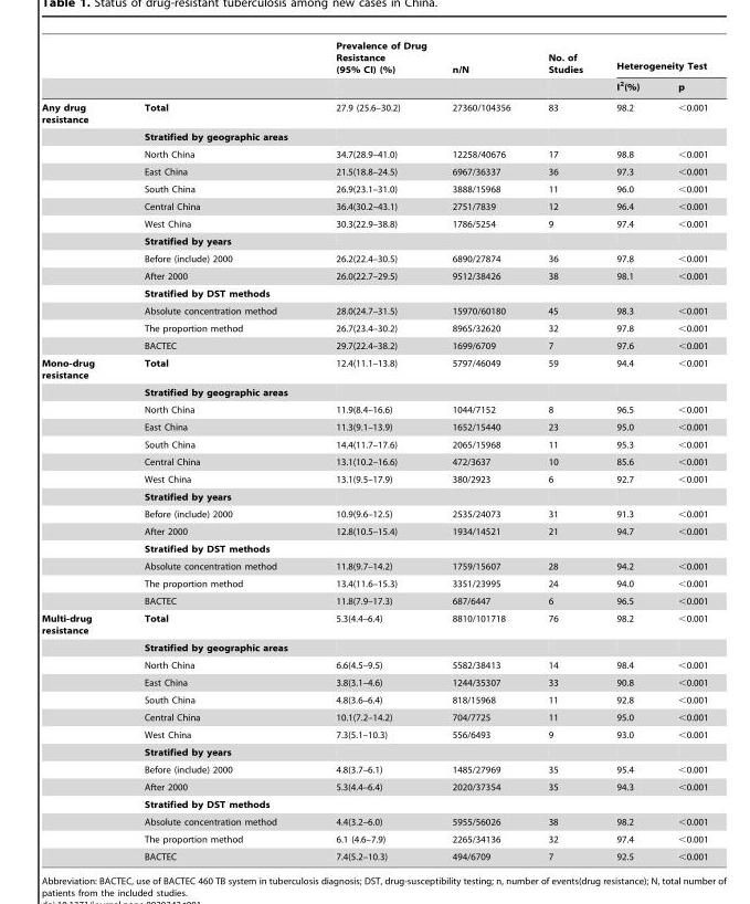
<table><thead><tr><td rowspan="2"></td><td rowspan="2"></td><td rowspan="2">Prevalence of Drug Resistance (95% CI) (%)</td><td rowspan="2">n/N</td><td rowspan="2">No. of Studies</td><td colspan="2">Heterogeneity Test</td></tr><tr><td>I<sup>2</sup>(%)</td><td>p</td></tr></thead><tbody><tr><td rowspan="14">Any drug resistance</td><td>Total</td><td>27.9 (25.6–30.2)</td><td>27360/104356</td><td>83</td><td>98.2</td><td>&lt;0.001</td></tr><tr><td>Stratified by geographic areas</td><td></td><td></td><td></td><td></td><td></td></tr><tr><td>North China</td><td>34.7(28.9–41.0)</td><td>12258/40676</td><td>17</td><td>98.8</td><td>&lt;0.001</td></tr><tr><td>East China</td><td>21.5(18.8–24.5)</td><td>6967/36337</td><td>36</td><td>97.3</td><td>&lt;0.001</td></tr><tr><td>South China</td><td>26.9(23.1–31.0)</td><td>3888/15968</td><td>11</td><td>96.0</td><td>&lt;0.001</td></tr><tr><td>Central China</td><td>36.4(30.2–43.1)</td><td>2751/7839</td><td>12</td><td>96.4</td><td>&lt;0.001</td></tr><tr><td>West China</td><td>30.3(22.9–38.8)</td><td>1786/5254</td><td>9</td><td>97.4</td><td>&lt;0.001</td></tr><tr><td>Stratified by years</td><td></td><td></td><td></td><td></td><td></td></tr><tr><td>Before (include) 2000</td><td>26.2(22.4–30.5)</td><td>6890/27874</td><td>36</td><td>97.8</td><td>&lt;0.001</td></tr><tr><td>After 2000</td><td>26.0(22.7–29.5)</td><td>9512/38426</td><td>38</td><td>98.1</td><td>&lt;0.001</td></tr><tr><td>Stratified by DST methods</td><td></td><td></td><td></td><td></td><td></td></tr><tr><td>Absolute concentration method</td><td>28.0(24.7–31.5)</td><td>15970/60180</td><td>45</td><td>98.3</td><td>&lt;0.001</td></tr><tr><td>The proportion method</td><td>26.7(23.4–30.2)</td><td>8965/32620</td><td>32</td><td>97.8</td><td>&lt;0.001</td></tr><tr><td>BACTEC</td><td>29.7(22.4–38.2)</td><td>1699/6709</td><td>7</td><td>97.6</td><td>&lt;0.001</td></tr><tr><td rowspan="14">Mono-drug resistance</td><td>Total</td><td>12.4(11.1–13.8)</td><td>5797/46049</td><td>59</td><td>94.4</td><td>&lt;0.001</td></tr><tr><td>Stratified by geographic areas</td><td></td><td></td><td></td><td></td><td></td></tr><tr><td>North China</td><td>11.9(8.4–16.6)</td><td>1044/7152</td><td>8</td><td>96.5</td><td>&lt;0.001</td></tr><tr><td>East China</td><td>11.3(9.1–13.9)</td><td>1652/15440</td><td>23</td><td>95.0</td><td>&lt;0.001</td></tr><tr><td>South China</td><td>14.4(11.7–17.6)</td><td>2065/15968</td><td>11</td><td>95.3</td><td>&lt;0.001</td></tr><tr><td>Central China</td><td>13.1(10.2–16.6)</td><td>472/3637</td><td>10</td><td>85.6</td><td>&lt;0.001</td></tr><tr><td>West China</td><td>13.1(9.5–17.9)</td><td>380/2923</td><td>6</td><td>92.7</td><td>&lt;0.001</td></tr><tr><td>Stratified by years</td><td></td><td></td><td></td><td></td><td></td></tr><tr><td>Before (include) 2000</td><td>10.9(9.6–12.5)</td><td>2535/24073</td><td>31</td><td>91.3</td><td>&lt;0.001</td></tr><tr><td>After 2000</td><td>12.8(10.5–15.4)</td><td>1934/14521</td><td>21</td><td>94.7</td><td>&lt;0.001</td></tr><tr><td>Stratified by DST methods</td><td></td><td></td><td></td><td></td><td></td></tr><tr><td>Absolute concentration method</td><td>11.8(9.7–14.2)</td><td>1759/15607</td><td>28</td><td>94.2</td><td>&lt;0.001</td></tr><tr><td>The proportion method</td><td>13.4(11.6–15.3)</td><td>3351/23995</td><td>24</td><td>94.0</td><td>&lt;0.001</td></tr><tr><td>BACTEC</td><td>11.8(7.9–17.3)</td><td>687/6447</td><td>6</td><td>96.5</td><td>&lt;0.001</td></tr><tr><td rowspan="14">Multi-drug resistance</td><td>Total</td><td>5.3(4.4–6.4)</td><td>8810/101718</td><td>76</td><td>98.2</td><td>&lt;0.001</td></tr><tr><td>Stratified by geographic areas</td><td></td><td></td><td></td><td></td><td></td></tr><tr><td>North China</td><td>6.6(4.5–9.5)</td><td>5582/38413</td><td>14</td><td>98.4</td><td>&lt;0.001</td></tr><tr><td>East China</td><td>3.8(3.1–4.6)</td><td>1244/35307</td><td>33</td><td>90.8</td><td>&lt;0.001</td></tr><tr><td>South China</td><td>4.8(3.6–6.4)</td><td>818/15968</td><td>11</td><td>92.8</td><td>&lt;0.001</td></tr><tr><td>Central China</td><td>10.1(7.2–14.2)</td><td>704/7725</td><td>11</td><td>95.0</td><td>&lt;0.001</td></tr><tr><td>West China</td><td>7.3(5.1–10.3)</td><td>556/6493</td><td>9</td><td>93.0</td><td>&lt;0.001</td></tr><tr><td>Stratified by years</td><td></td><td></td><td></td><td></td><td></td></tr><tr><td>Before (include) 2000</td><td>4.8(3.7–6.1)</td><td>1485/27969</td><td>35</td><td>95.4</td><td>&lt;0.001</td></tr><tr><td>After 2000</td><td>5.3(4.4–6.4)</td><td>2020/37354</td><td>35</td><td>94.3</td><td>&lt;0.001</td></tr><tr><td>Stratified by DST methods</td><td></td><td></td><td></td><td></td><td></td></tr><tr><td>Absolute concentration method</td><td>4.4(3.2–6.0)</td><td>5955/56026</td><td>38</td><td>98.2</td><td>&lt;0.001</td></tr><tr><td>The proportion method</td><td>6.1 (4.6–7.9)</td><td>2265/34136</td><td>32</td><td>97.4</td><td>&lt;0.001</td></tr><tr><td>BACTEC</td><td>7.4(5.2–10.3)</td><td>494/6709</td><td>7</td><td>92.5</td><td>&lt;0.001</td></tr></tbody></table>